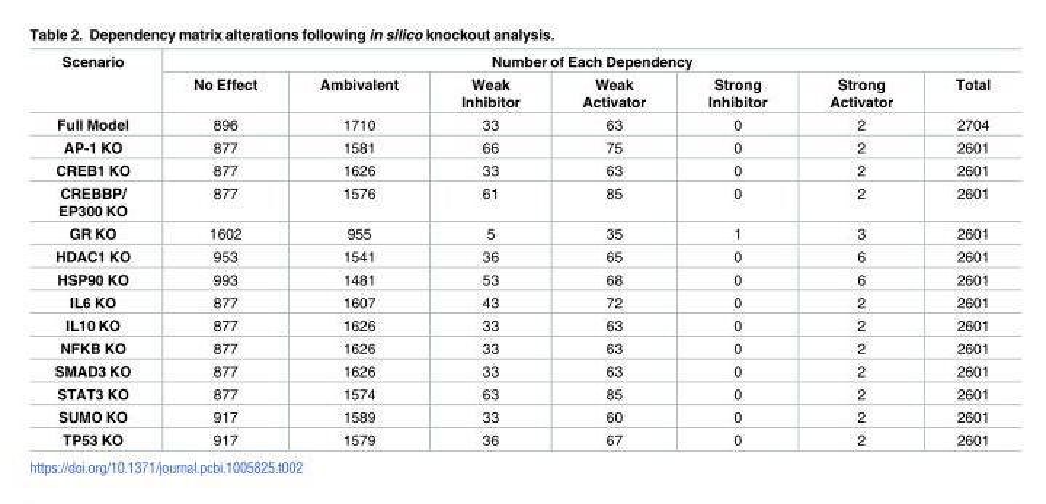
<table><thead><tr><td rowspan="2">Scenario</td><td colspan="7">Number of Each Dependency</td></tr><tr><td>No Effect</td><td>Ambivalent</td><td>Weak Inhibitor</td><td>Weak Activator</td><td>Strong Inhibitor</td><td>Strong Activator</td><td>Total</td></tr></thead><tbody><tr><td>Full Model</td><td>896</td><td>1710</td><td>33</td><td>63</td><td>0</td><td>2</td><td>2704</td></tr><tr><td>AP-1 KO</td><td>877</td><td>1581</td><td>66</td><td>75</td><td>0</td><td>2</td><td>2601</td></tr><tr><td>CREB1 KO</td><td>877</td><td>1626</td><td>33</td><td>63</td><td>0</td><td>2</td><td>2601</td></tr><tr><td>CREBBP/ EP300 KO</td><td>877</td><td>1576</td><td>61</td><td>85</td><td>0</td><td>2</td><td>2601</td></tr><tr><td>GR KO</td><td>1602</td><td>955</td><td>5</td><td>35</td><td>1</td><td>3</td><td>2601</td></tr><tr><td>HDAC1 KO</td><td>953</td><td>1541</td><td>36</td><td>65</td><td>0</td><td>6</td><td>2601</td></tr><tr><td>HSP90 KO</td><td>993</td><td>1481</td><td>53</td><td>68</td><td>0</td><td>6</td><td>2601</td></tr><tr><td>IL6 KO</td><td>877</td><td>1607</td><td>43</td><td>72</td><td>0</td><td>2</td><td>2601</td></tr><tr><td>IL10 KO</td><td>877</td><td>1626</td><td>33</td><td>63</td><td>0</td><td>2</td><td>2601</td></tr><tr><td>NFKB KO</td><td>877</td><td>1626</td><td>33</td><td>63</td><td>0</td><td>2</td><td>2601</td></tr><tr><td>SMAD3 KO</td><td>877</td><td>1626</td><td>33</td><td>63</td><td>0</td><td>2</td><td>2601</td></tr><tr><td>STAT3 KO</td><td>877</td><td>1574</td><td>63</td><td>85</td><td>0</td><td>2</td><td>2601</td></tr><tr><td>SUMO KO</td><td>917</td><td>1589</td><td>33</td><td>60</td><td>0</td><td>2</td><td>2601</td></tr><tr><td>TP53 KO</td><td>917</td><td>1579</td><td>36</td><td>67</td><td>0</td><td>2</td><td>2601</td></tr></tbody></table>